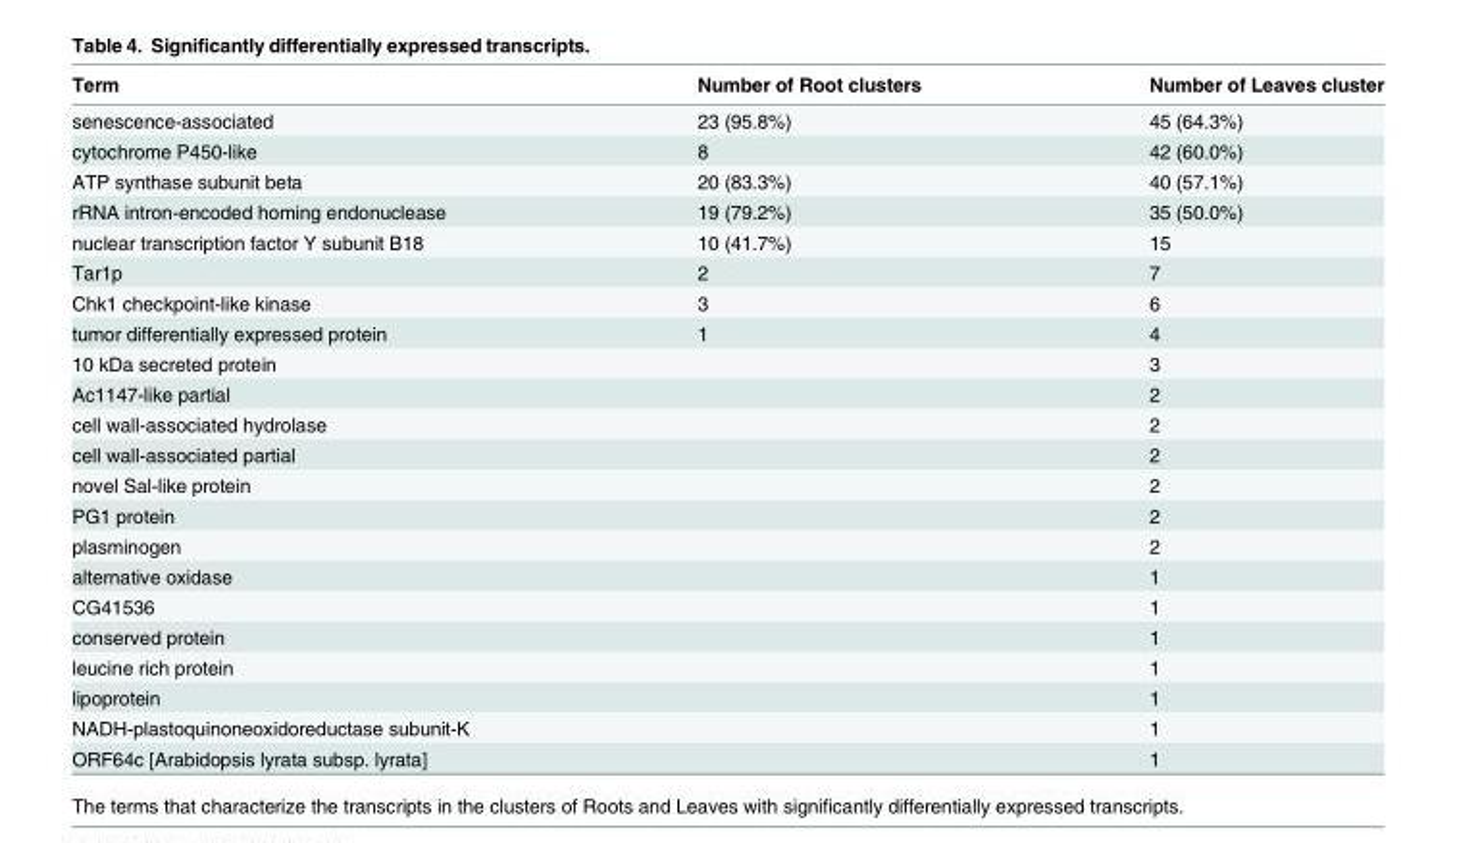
<table><thead><tr><td>Term</td><td>Number of Root clusters</td><td>Number of Leaves cluster</td></tr></thead><tbody><tr><td>senescence-associated</td><td>23 (95.8%)</td><td>45 (64.3%)</td></tr><tr><td>cytochrome P450-like</td><td>8</td><td>42 (60.0%)</td></tr><tr><td>ATP synthase subunit beta</td><td>20 (83.3%)</td><td>40 (57.1%)</td></tr><tr><td>rRNA intron-encoded homing endonuclease</td><td>19 (79.2%)</td><td>35 (50.0%)</td></tr><tr><td>nuclear transcription factor Y subunit B18</td><td>10 (41.7%)</td><td>15</td></tr><tr><td>Tar1p</td><td>2</td><td>7</td></tr><tr><td>Chk1 checkpoint-like kinase</td><td>3</td><td>6</td></tr><tr><td>tumor differentially expressed protein</td><td>1</td><td>4</td></tr><tr><td>10 kDa secreted protein</td><td></td><td>3</td></tr><tr><td>Ac1147-like partial</td><td></td><td>2</td></tr><tr><td>cell wall-associated hydrolase</td><td></td><td>2</td></tr><tr><td>cell wall-associated partial</td><td></td><td>2</td></tr><tr><td>novel Sal-like protein</td><td></td><td>2</td></tr><tr><td>PG1 protein</td><td></td><td>2</td></tr><tr><td>plasminogen</td><td></td><td>2</td></tr><tr><td>alternative oxidase</td><td></td><td>1</td></tr><tr><td>CG41536</td><td></td><td>1</td></tr><tr><td>conserved protein</td><td></td><td>1</td></tr><tr><td>leucine rich protein</td><td></td><td>1</td></tr><tr><td>lipoprotein</td><td></td><td>1</td></tr><tr><td>NADH-plastoquinoneoxidoreductase subunit-K</td><td></td><td>1</td></tr><tr><td>ORF64c [Arabidopsis lyrata subsp. lyrata]</td><td></td><td>1</td></tr></tbody></table>